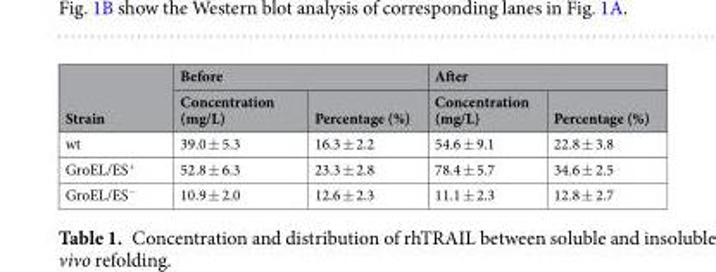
<table><thead><tr><td rowspan="2">Strain</td><td colspan="2">Before</td><td colspan="2">After</td></tr><tr><td>Concentration (mg/L)</td><td>Percentage (%)</td><td>Concentration (mg/L)</td><td>Percentage (%)</td></tr></thead><tbody><tr><td>wt</td><td>39.0 ± 5.3</td><td>16.3 ± 2.2</td><td>54.6 ± 9.1</td><td>22.8 ± 3.8</td></tr><tr><td>GroEL/ES<sup>+</sup></td><td>52.8 ± 6.3</td><td>23.3 ± 2.8</td><td>78.4 ± 5.7</td><td>34.6 ± 2.5</td></tr><tr><td>GroEL/ES<sup>−</sup></td><td>10.9 ± 2.0</td><td>12.6 ± 2.3</td><td>11.1 ± 2.3</td><td>12.8 ± 2.7</td></tr></tbody></table>